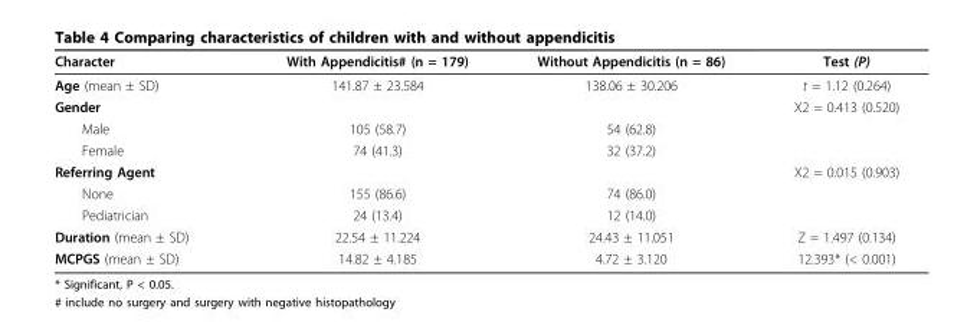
<table><thead><tr><td>Character</td><td>With Appendicitis# (n = 179)</td><td>Without Appendicitis (n = 86)</td><td>Test (P)</td></tr></thead><tbody><tr><td>Age (mean ± SD)</td><td>141.87 ± 23.584</td><td>138.06 ± 30.206</td><td>t = 1.12 (0.264)</td></tr><tr><td>Gender</td><td></td><td></td><td>X2 = 0.413 (0.520)</td></tr><tr><td>Male</td><td>105 (58.7)</td><td>54 (62.8)</td><td></td></tr><tr><td>Female</td><td>74 (41.3)</td><td>32 (37.2)</td><td></td></tr><tr><td>Referring Agent</td><td></td><td></td><td>X2 = 0.015 (0.903)</td></tr><tr><td>None</td><td>155 (86.6)</td><td>74 (86.0)</td><td></td></tr><tr><td>Pediatrician</td><td>24 (13.4)</td><td>12 (14.0)</td><td></td></tr><tr><td>Duration (mean ± SD)</td><td>22.54 ± 11.224</td><td>24.43 ± 11.051</td><td>Z = 1.497 (0.134)</td></tr><tr><td>MCPGS (mean ± SD)</td><td>14.82 ± 4.185</td><td>4.72 ± 3.120</td><td>12.393* (&lt; 0.001)</td></tr></tbody></table>